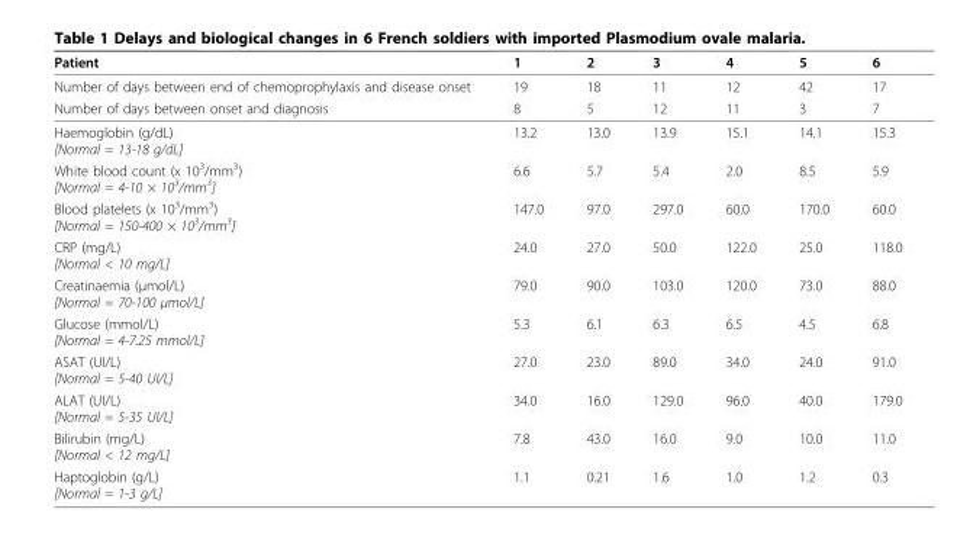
<table><thead><tr><td>Patient</td><td>1</td><td>2</td><td>3</td><td>4</td><td>5</td><td>6</td></tr></thead><tbody><tr><td>Number of days between end of chemoprophylaxis and disease onset</td><td>19</td><td>18</td><td>11</td><td>12</td><td>42</td><td>17</td></tr><tr><td>Number of days between onset and diagnosis</td><td>8</td><td>5</td><td>12</td><td>11</td><td>3</td><td>7</td></tr><tr><td>Haemoglobin (g/dL) [Normal = 13-18 g/dL]</td><td>13.2</td><td>13.0</td><td>13.9</td><td>15.1</td><td>14.1</td><td>15.3</td></tr><tr><td>White blood count (x 10<sup>3</sup>/mm<sup>3</sup>) [Normal = 4-10 × 10<sup>3</sup>/mm<sup>3</sup>]</td><td>6.6</td><td>5.7</td><td>5.4</td><td>2.0</td><td>8.5</td><td>5.9</td></tr><tr><td>Blood platelets (x 10<sup>3</sup>/mm<sup>3</sup>) [Normal = 150-400 × 10<sup>3</sup>/mm<sup>3</sup>]</td><td>147.0</td><td>97.0</td><td>297.0</td><td>60.0</td><td>170.0</td><td>60.0</td></tr><tr><td>CRP (mg/L) [Normal &lt; 10 mg/L]</td><td>24.0</td><td>27.0</td><td>50.0</td><td>122.0</td><td>25.0</td><td>118.0</td></tr><tr><td>Creatinaemia (μmol/L) [Normal = 70-100 μmol/L]</td><td>79.0</td><td>90.0</td><td>103.0</td><td>120.0</td><td>73.0</td><td>88.0</td></tr><tr><td>Glucose (mmol/L) [Normal = 4-7.25 mmol/L]</td><td>5.3</td><td>6.1</td><td>6.3</td><td>6.5</td><td>4.5</td><td>6.8</td></tr><tr><td>ASAT (UI/L) [Normal = 5-40 UI/L]</td><td>27.0</td><td>23.0</td><td>89.0</td><td>34.0</td><td>24.0</td><td>91.0</td></tr><tr><td>ALAT (UI/L) [Normal = 5-35 UI/L]</td><td>34.0</td><td>16.0</td><td>129.0</td><td>96.0</td><td>40.0</td><td>179.0</td></tr><tr><td>Bilirubin (mg/L) [Normal &lt; 12 mg/L]</td><td>7.8</td><td>43.0</td><td>16.0</td><td>9.0</td><td>10.0</td><td>11.0</td></tr><tr><td>Haptoglobin (g/L) [Normal = 1-3 g/L]</td><td>1.1</td><td>0.21</td><td>1.6</td><td>1.0</td><td>1.2</td><td>0.3</td></tr></tbody></table>